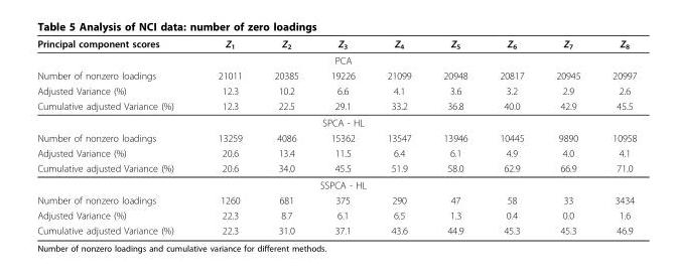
<table><thead><tr><td>Principal component scores</td><td>Z<sub>1</sub></td><td>Z<sub>2</sub></td><td>Z<sub>3</sub></td><td>Z<sub>4</sub></td><td>Z<sub>5</sub></td><td>Z<sub>6</sub></td><td>Z<sub>7</sub></td><td>Z<sub>8</sub></td></tr></thead><tbody><tr><td colspan="9">PCA</td></tr><tr><td>Number of nonzero loadings</td><td>21011</td><td>20385</td><td>19226</td><td>21099</td><td>20948</td><td>20817</td><td>20945</td><td>20997</td></tr><tr><td>Adjusted Variance (%)</td><td>12.3</td><td>10.2</td><td>6.6</td><td>4.1</td><td>3.6</td><td>3.2</td><td>2.9</td><td>2.6</td></tr><tr><td>Cumulative adjusted Variance (%)</td><td>12.3</td><td>22.5</td><td>29.1</td><td>33.2</td><td>36.8</td><td>40.0</td><td>42.9</td><td>45.5</td></tr><tr><td colspan="9">SPCA - HL</td></tr><tr><td>Number of nonzero loadings</td><td>13259</td><td>4086</td><td>15362</td><td>13547</td><td>13946</td><td>10445</td><td>9890</td><td>10958</td></tr><tr><td>Adjusted Variance (%)</td><td>20.6</td><td>13.4</td><td>11.5</td><td>6.4</td><td>6.1</td><td>4.9</td><td>4.0</td><td>4.1</td></tr><tr><td>Cumulative adjusted Variance (%)</td><td>20.6</td><td>34.0</td><td>45.5</td><td>51.9</td><td>58.0</td><td>62.9</td><td>66.9</td><td>71.0</td></tr><tr><td colspan="9">SSPCA - HL</td></tr><tr><td>Number of nonzero loadings</td><td>1260</td><td>681</td><td>375</td><td>290</td><td>47</td><td>58</td><td>33</td><td>3434</td></tr><tr><td>Adjusted Variance (%)</td><td>22.3</td><td>8.7</td><td>6.1</td><td>6.5</td><td>1.3</td><td>0.4</td><td>0.0</td><td>1.6</td></tr><tr><td>Cumulative adjusted Variance (%)</td><td>22.3</td><td>31.0</td><td>37.1</td><td>43.6</td><td>44.9</td><td>45.3</td><td>45.3</td><td>46.9</td></tr></tbody></table>